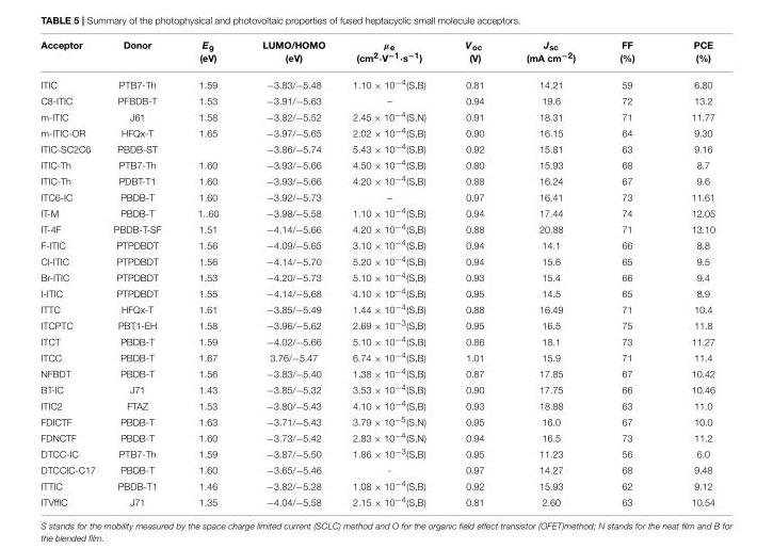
<table><thead><tr><td>Acceptor</td><td>Donor</td><td>E<sub>g</sub> (eV)</td><td>LUMO/HOMO (eV)</td><td>µ<sub>e</sub> (cm<sup>2</sup>·V<sup>−1</sup>·s<sup>−1</sup>)</td><td>V<sub>oc</sub> (V)</td><td>J<sub>sc</sub> (mA cm<sup>−2</sup>)</td><td>FF (%)</td><td>PCE (%)</td></tr></thead><tbody><tr><td>ITIC</td><td>PTB7-Th</td><td>1.59</td><td>−3.83/−5.48</td><td>1.10 × 10<sup>−4</sup>(S,B)</td><td>0.81</td><td>14.21</td><td>59</td><td>6.80</td></tr><tr><td>C8-ITIC</td><td>PFBDB-T</td><td>1.53</td><td>−3.91/−5.63</td><td>–</td><td>0.94</td><td>19.6</td><td>72</td><td>13.2</td></tr><tr><td>m-ITIC</td><td>J61</td><td>1.58</td><td>−3.82/−5.52</td><td>2.45 × 10<sup>−4</sup>(S,N)</td><td>0.91</td><td>18.31</td><td>71</td><td>11.77</td></tr><tr><td>m-ITIC-OR</td><td>HFQx-T</td><td>1.65</td><td>−3.97/−5.65</td><td>2.02 × 10<sup>−4</sup>(S,B)</td><td>0.90</td><td>16.15</td><td>64</td><td>9.30</td></tr><tr><td>ITIC-SC2C6</td><td>PBDB-ST</td><td></td><td>−3.86/−5.74</td><td>5.43 × 10<sup>−4</sup>(S,B)</td><td>0.92</td><td>15.81</td><td>63</td><td>9.16</td></tr><tr><td>ITIC-Th</td><td>PTB7-Th</td><td>1.60</td><td>−3.93/−5.66</td><td>4.50 × 10<sup>−4</sup>(S,B)</td><td>0.80</td><td>15.93</td><td>68</td><td>8.7</td></tr><tr><td>ITIC-Th</td><td>PDBT-T1</td><td>1.60</td><td>−3.93/−5.66</td><td>4.20 × 10<sup>−4</sup>(S,B)</td><td>0.88</td><td>16.24</td><td>67</td><td>9.6</td></tr><tr><td>ITC6-IC</td><td>PBDB-T</td><td>1.60</td><td>−3.92/−5.73</td><td>–</td><td>0.97</td><td>16.41</td><td>73</td><td>11.61</td></tr><tr><td>IT-M</td><td>PBDB-T</td><td>1..60</td><td>−3.98/−5.58</td><td>1.10 × 10<sup>−4</sup>(S,B)</td><td>0.94</td><td>17.44</td><td>74</td><td>12.05</td></tr><tr><td>IT-4F</td><td>PBDB-T-SF</td><td>1.51</td><td>−4.14/−5.66</td><td>4.20 × 10<sup>−4</sup>(S,B)</td><td>0.88</td><td>20.88</td><td>71</td><td>13.10</td></tr><tr><td>F-ITIC</td><td>PTPDBDT</td><td>1.56</td><td>−4.09/−5.65</td><td>3.10 × 10<sup>−4</sup>(S,B)</td><td>0.94</td><td>14.1</td><td>66</td><td>8.8</td></tr><tr><td>Cl-ITIC</td><td>PTPDBDT</td><td>1.56</td><td>−4.14/−5.70</td><td>5.20 × 10<sup>−4</sup>(S,B)</td><td>0.94</td><td>15.6</td><td>65</td><td>9.5</td></tr><tr><td>Br-ITIC</td><td>PTPDBDT</td><td>1.53</td><td>−4.20/−5.73</td><td>5.10 × 10<sup>−4</sup>(S,B)</td><td>0.93</td><td>15.4</td><td>66</td><td>9.4</td></tr><tr><td>I-ITIC</td><td>PTPDBDT</td><td>1.55</td><td>−4.14/−5.68</td><td>4.10 × 10<sup>−4</sup>(S,B)</td><td>0.95</td><td>14.5</td><td>65</td><td>8.9</td></tr><tr><td>ITTC</td><td>HFQx-T</td><td>1.61</td><td>−3.85/−5.49</td><td>1.44 × 10<sup>−4</sup>(S,B)</td><td>0.88</td><td>16.49</td><td>71</td><td>10.4</td></tr><tr><td>ITCPTC</td><td>PBT1-EH</td><td>1.58</td><td>−3.96/−5.62</td><td>2.69 × 10<sup>−3</sup>(S,B)</td><td>0.95</td><td>16.5</td><td>75</td><td>11.8</td></tr><tr><td>ITCT</td><td>PBDB-T</td><td>1.59</td><td>−4.02/−5.66</td><td>5.10 × 10<sup>−4</sup>(S,B)</td><td>0.86</td><td>18.1</td><td>73</td><td>11.27</td></tr><tr><td>ITCC</td><td>PBDB-T</td><td>1.67</td><td>3.76/−5.47</td><td>6.74 × 10<sup>−4</sup>(S,B)</td><td>1.01</td><td>15.9</td><td>71</td><td>11.4</td></tr><tr><td>NFBDT</td><td>PBDB-T</td><td>1.56</td><td>−3.83/−5.40</td><td>1.38 × 10<sup>−4</sup>(S,B)</td><td>0.87</td><td>17.85</td><td>67</td><td>10.42</td></tr><tr><td>BT-IC</td><td>J71</td><td>1.43</td><td>−3.85/−5.32</td><td>3.53 × 10<sup>−4</sup>(S,B)</td><td>0.90</td><td>17.75</td><td>66</td><td>10.46</td></tr><tr><td>ITIC2</td><td>FTAZ</td><td>1.53</td><td>−3.80/−5.43</td><td>4.10 × 10<sup>−4</sup>(S,B)</td><td>0.93</td><td>18.88</td><td>63</td><td>11.0</td></tr><tr><td>FDICTF</td><td>PBDB-T</td><td>1.63</td><td>−3.71/−5.43</td><td>3.79 × 10<sup>−5</sup>(S,N)</td><td>0.95</td><td>16.0</td><td>67</td><td>10.0</td></tr><tr><td>FDNCTF</td><td>PBDB-T</td><td>1.60</td><td>−3.73/−5.42</td><td>2.83 × 10<sup>−4</sup>(S,N)</td><td>0.94</td><td>16.5</td><td>73</td><td>11.2</td></tr><tr><td>DTCC-IC</td><td>PTB7-Th</td><td>1.59</td><td>−3.87/−5.50</td><td>1.86 × 10<sup>−3</sup>(S,B)</td><td>0.95</td><td>11.23</td><td>56</td><td>6.0</td></tr><tr><td>DTCCIC-C17</td><td>PBDB-T</td><td>1.60</td><td>−3.65/−5.46</td><td>-</td><td>0.97</td><td>14.27</td><td>68</td><td>9.48</td></tr><tr><td>ITTIC</td><td>PBDB-T1</td><td>1.46</td><td>−3.82/−5.28</td><td>1.08 × 10<sup>−4</sup>(S,B)</td><td>0.92</td><td>15.93</td><td>62</td><td>9.12</td></tr><tr><td>ITVffIC</td><td>J71</td><td>1.35</td><td>−4.04/−5.58</td><td>2.15 × 10<sup>−4</sup>(S,B)</td><td>0.81</td><td>2.60</td><td>63</td><td>10.54</td></tr></tbody></table>